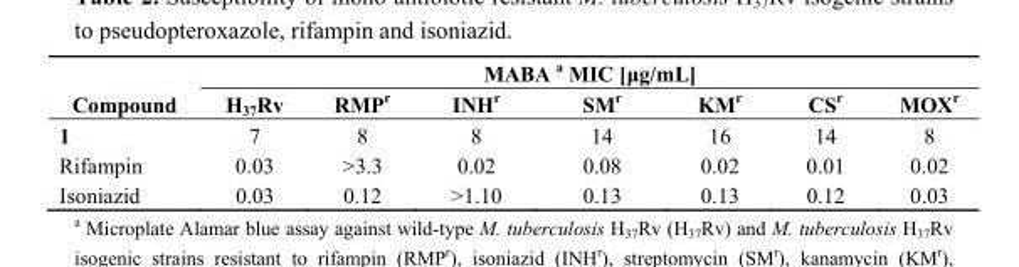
<table><thead><tr><td rowspan="2">Compound</td><td colspan="7">MABA <sup>a</sup> MIC [μg/mL]</td></tr><tr><td>H<sub>37</sub>Rv</td><td>RMP<sup>r</sup></td><td>INH<sup>r</sup></td><td>SM<sup>r</sup></td><td>KM<sup>r</sup></td><td>CS<sup>r</sup></td><td>MOX<sup>r</sup></td></tr></thead><tbody><tr><td>1</td><td>7</td><td>8</td><td>8</td><td>14</td><td>16</td><td>14</td><td>8</td></tr><tr><td>Rifampin</td><td>0.03</td><td>&gt;3.3</td><td>0.02</td><td>0.08</td><td>0.02</td><td>0.01</td><td>0.02</td></tr><tr><td>Isoniazid</td><td>0.03</td><td>0.12</td><td>&gt;1.10</td><td>0.13</td><td>0.13</td><td>0.12</td><td>0.03</td></tr></tbody></table>